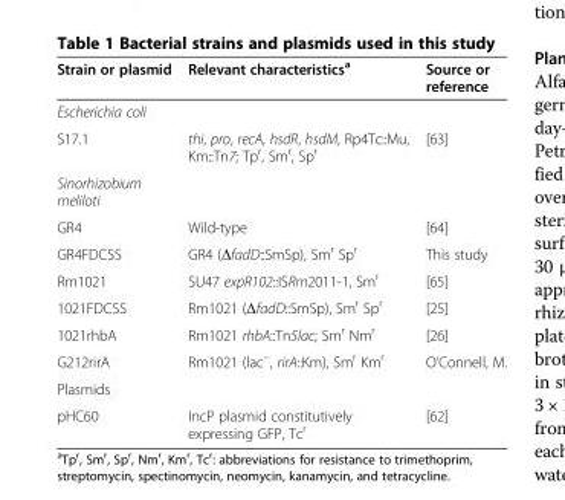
<table><thead><tr><td>Strain or plasmid</td><td>Relevant characteristics<sup>a</sup></td><td>Source or reference</td></tr></thead><tbody><tr><td colspan="3">Escherichia coli</td></tr><tr><td>S17.1</td><td>thi, pro, recA, hsdR, hsdM, Rp4Tc::Mu, Km::Tn7; Tp<sup>r</sup>, Sm<sup>r</sup>, Sp<sup>r</sup></td><td>[63]</td></tr><tr><td colspan="3">Sinorhizobium meliloti</td></tr><tr><td>GR4</td><td>Wild-type</td><td>[64]</td></tr><tr><td>GR4FDCSS</td><td>GR4 (ΔfadD::SmSp), Sm<sup>r</sup> Sp<sup>r</sup></td><td>This study</td></tr><tr><td>Rm1021</td><td>SU47 expR102::ISRm2011-1, Sm<sup>r</sup></td><td>[65]</td></tr><tr><td>1021FDCSS</td><td>Rm1021 (ΔfadD::SmSp), Sm<sup>r</sup> Sp<sup>r</sup></td><td>[25]</td></tr><tr><td>1021rhbA</td><td>Rm1021 rhbA::Tn5lac; Sm<sup>r</sup> Nm<sup>r</sup></td><td>[26]</td></tr><tr><td>G212rirA</td><td>Rm1021 (lac<sup>−</sup>, rirA::Km), Sm<sup>r</sup> Km<sup>r</sup></td><td>O’Connell, M.</td></tr><tr><td colspan="3">Plasmids</td></tr><tr><td>pHC60</td><td>IncP plasmid constitutively expressing GFP, Tc<sup>r</sup></td><td>[62]</td></tr></tbody></table>